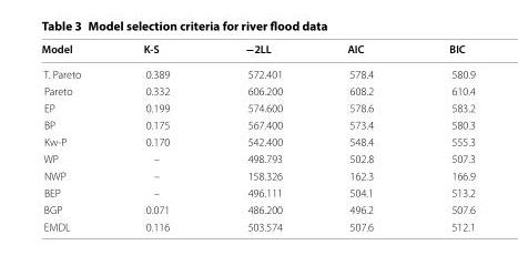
<table><thead><tr><td>Model</td><td>K-S</td><td>−2LL</td><td>AIC</td><td>BIC</td></tr></thead><tbody><tr><td>T. Pareto</td><td>0.389</td><td>572.401</td><td>578.4</td><td>580.9</td></tr><tr><td>Pareto</td><td>0.332</td><td>606.200</td><td>608.2</td><td>610.4</td></tr><tr><td>EP</td><td>0.199</td><td>574.600</td><td>578.6</td><td>583.2</td></tr><tr><td>BP</td><td>0.175</td><td>567.400</td><td>573.4</td><td>580.3</td></tr><tr><td>Kw-P</td><td>0.170</td><td>542.400</td><td>548.4</td><td>555.3</td></tr><tr><td>WP</td><td>–</td><td>498.793</td><td>502.8</td><td>507.3</td></tr><tr><td>NWP</td><td>–</td><td>158.326</td><td>162.3</td><td>166.9</td></tr><tr><td>BEP</td><td>–</td><td>496.111</td><td>504.1</td><td>513.2</td></tr><tr><td>BGP</td><td>0.071</td><td>486.200</td><td>496.2</td><td>507.6</td></tr><tr><td>EMDL</td><td>0.116</td><td>503.574</td><td>507.6</td><td>512.1</td></tr></tbody></table>